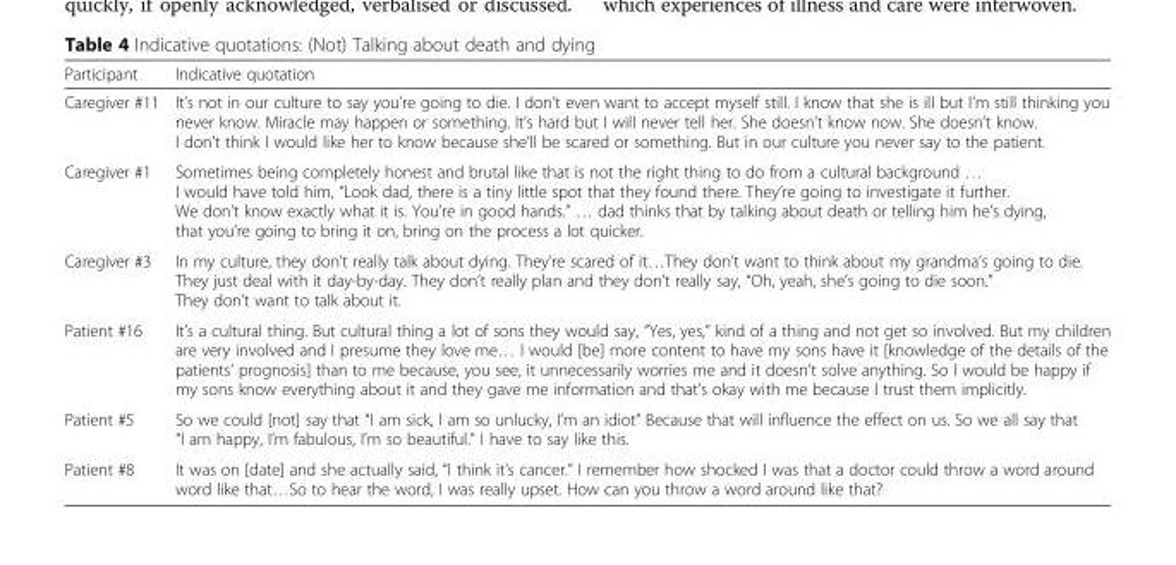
<table><thead><tr><td>Participant</td><td>Indicative quotation</td></tr></thead><tbody><tr><td>Caregiver #11</td><td>It’s not in our culture to say you’re going to die. I don’t even want to accept myself still. I know that she is ill but I’m still thinking you never know. Miracle may happen or something. It’s hard but I will never tell her. She doesn’t know now. She doesn’t know. I don’t think I would like her to know because she’ll be scared or something. But in our culture you never say to the patient.</td></tr><tr><td>Caregiver #1</td><td>Sometimes being completely honest and brutal like that is not the right thing to do from a cultural background … I would have told him, “Look dad, there is a tiny little spot that they found there. They’re going to investigate it further. We don’t know exactly what it is. You’re in good hands.” … dad thinks that by talking about death or telling him he’s dying, that you’re going to bring it on, bring on the process a lot quicker.</td></tr><tr><td>Caregiver #3</td><td>In my culture, they don’t really talk about dying. They’re scared of it…They don’t want to think about my grandma’s going to die. They just deal with it day-by-day. They don’t really plan and they don’t really say, “Oh, yeah, she’s going to die soon.” They don’t want to talk about it.</td></tr><tr><td>Patient #16</td><td>It’s a cultural thing. But cultural thing a lot of sons they would say, “Yes, yes,” kind of a thing and not get so involved. But my children are very involved and I presume they love me… I would [be] more content to have my sons have it [knowledge of the details of the patients’ prognosis] than to me because, you see, it unnecessarily worries me and it doesn’t solve anything. So I would be happy if my sons know everything about it and they gave me information and that’s okay with me because I trust them implicitly.</td></tr><tr><td>Patient #5</td><td>So we could [not] say that “I am sick, I am so unlucky, I’m an idiot” Because that will influence the effect on us. So we all say that “I am happy, I’m fabulous, I’m so beautiful.” I have to say like this.</td></tr><tr><td>Patient #8</td><td>It was on [date] and she actually said, “I think it’s cancer.” I remember how shocked I was that a doctor could throw a word around word like that…So to hear the word, I was really upset. How can you throw a word around like that?</td></tr></tbody></table>